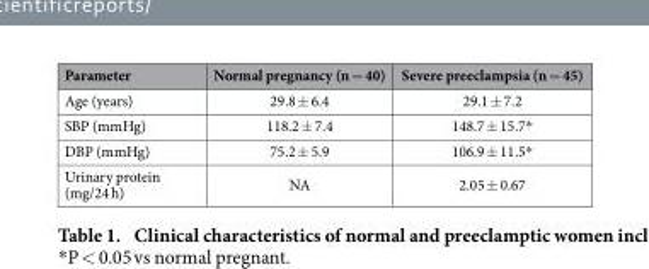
<table><thead><tr><td>Parameter</td><td>Normal pregnancy (n = 40)</td><td>Severe preeclampsia (n = 45)</td></tr></thead><tbody><tr><td>Age (years)</td><td>29.8 ± 6.4</td><td>29.1 ± 7.2</td></tr><tr><td>SBP (mmHg)</td><td>118.2 ± 7.4</td><td>148.7 ± 15.7*</td></tr><tr><td>DBP (mmHg)</td><td>75.2 ± 5.9</td><td>106.9 ± 11.5*</td></tr><tr><td>Urinary protein (mg/24 h)</td><td>NA</td><td>2.05 ± 0.67</td></tr></tbody></table>